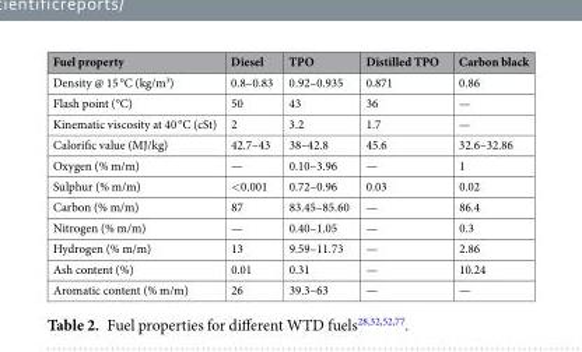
<table><thead><tr><td>Fuel property</td><td>Diesel</td><td>TPO</td><td>Distilled TPO</td><td>Carbon black</td></tr></thead><tbody><tr><td>Density @ 15 °C (kg/m<sup>3</sup>)</td><td>0.8–0.83</td><td>0.92–0.935</td><td>0.871</td><td>0.86</td></tr><tr><td>Flash point (°C)</td><td>50</td><td>43</td><td>36</td><td>—</td></tr><tr><td>Kinematic viscosity at 40 °C (cSt)</td><td>2</td><td>3.2</td><td>1.7</td><td>—</td></tr><tr><td>Calorific value (MJ/kg)</td><td>42.7–43</td><td>38–42.8</td><td>45.6</td><td>32.6–32.86</td></tr><tr><td>Oxygen (% m/m)</td><td>—</td><td>0.10–3.96</td><td>—</td><td>1</td></tr><tr><td>Sulphur (% m/m)</td><td>&lt;0.001</td><td>0.72–0.96</td><td>0.03</td><td>0.02</td></tr><tr><td>Carbon (% m/m)</td><td>87</td><td>83.45–85.60</td><td>—</td><td>86.4</td></tr><tr><td>Nitrogen (% m/m)</td><td>—</td><td>0.40–1.05</td><td>—</td><td>0.3</td></tr><tr><td>Hydrogen (% m/m)</td><td>13</td><td>9.59–11.73</td><td>—</td><td>2.86</td></tr><tr><td>Ash content (%)</td><td>0.01</td><td>0.31</td><td>—</td><td>10.24</td></tr><tr><td>Aromatic content (% m/m)</td><td>26</td><td>39.3–63</td><td>—</td><td>—</td></tr></tbody></table>